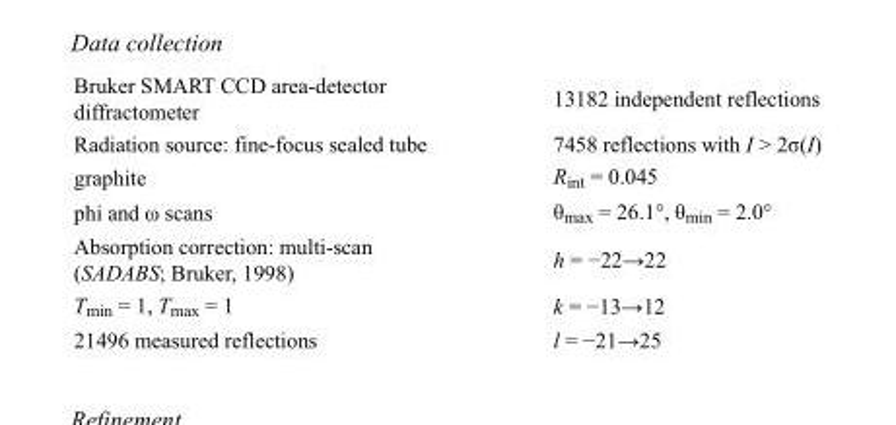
<table><tbody><tr><td>Bruker SMART CCD area-detector diffractometer</td><td>13182 independent reflections</td></tr><tr><td>Radiation source: fine-focus sealed tube</td><td>7458 reflections with I &gt; 2σ(I)</td></tr><tr><td>graphite</td><td>R<sub>int</sub> = 0.045</td></tr><tr><td>phi and ω scans</td><td>θ<sub>max</sub> = 26.1°, θ<sub>min</sub> = 2.0°</td></tr><tr><td>Absorption correction: multi-scan (SADABS; Bruker, 1998)</td><td>h = −22→22</td></tr><tr><td>T<sub>min</sub> = 1, T<sub>max</sub> = 1</td><td>k = −13→12</td></tr><tr><td>21496 measured reflections</td><td>l = −21→25</td></tr></tbody></table>